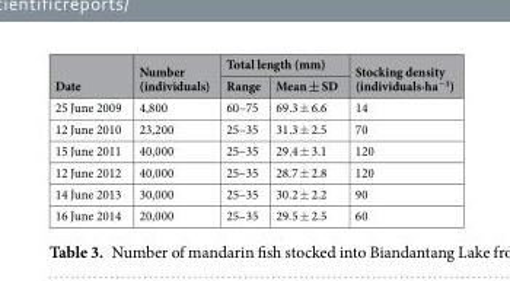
<table><thead><tr><td rowspan="2">Date</td><td rowspan="2">Number (individuals)</td><td colspan="2">Total length (mm)</td><td rowspan="2">Stocking density (individuals∙ha<sup>−1</sup>)</td></tr><tr><td>Range</td><td>Mean ± SD</td></tr></thead><tbody><tr><td>25 June 2009</td><td>4,800</td><td>60–75</td><td>69.3 ± 6.6</td><td>14</td></tr><tr><td>12 June 2010</td><td>23,200</td><td>25–35</td><td>31.3 ± 2.5</td><td>70</td></tr><tr><td>15 June 2011</td><td>40,000</td><td>25–35</td><td>29.4 ± 3.1</td><td>120</td></tr><tr><td>12 June 2012</td><td>40,000</td><td>25–35</td><td>28.7 ± 2.8</td><td>120</td></tr><tr><td>14 June 2013</td><td>30,000</td><td>25–35</td><td>30.2 ± 2.2</td><td>90</td></tr><tr><td>16 June 2014</td><td>20,000</td><td>25–35</td><td>29.5 ± 2.5</td><td>60</td></tr></tbody></table>